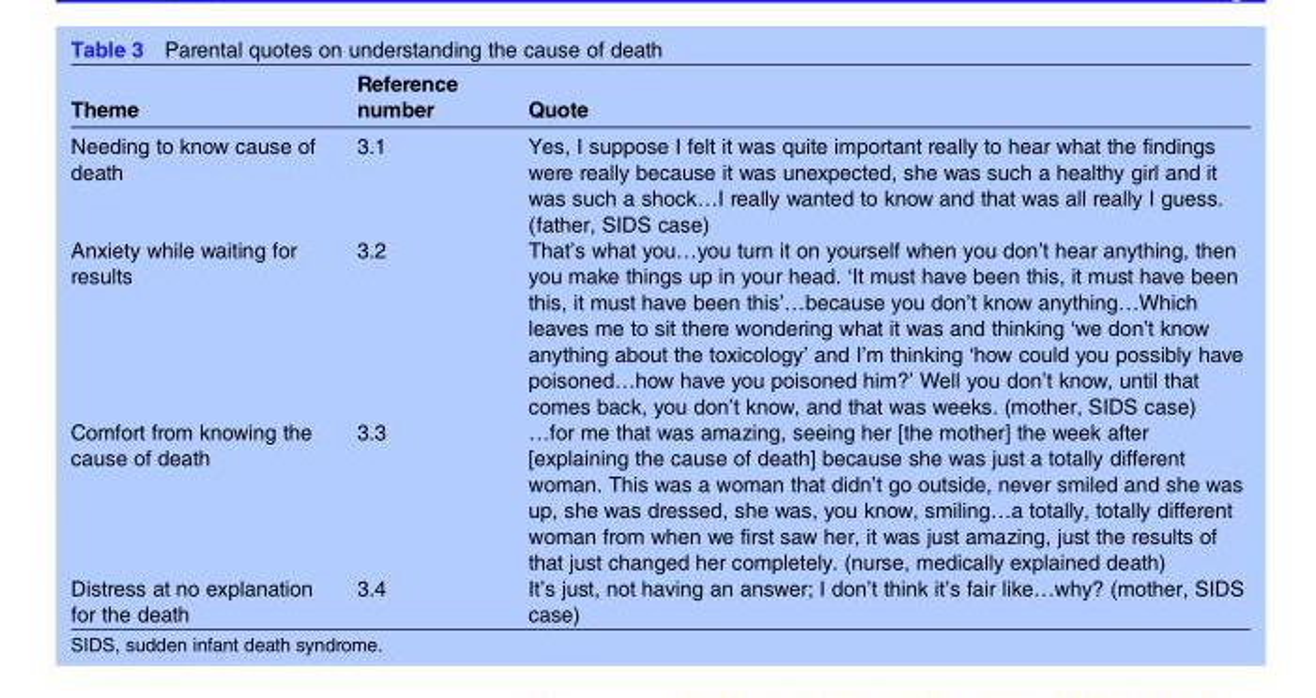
<table><thead><tr><td>Theme</td><td>Reference number</td><td>Quote</td></tr></thead><tbody><tr><td>Needing to know cause of death</td><td>3.1</td><td>Yes, I suppose I felt it was quite important really to hear what the findings were really because it was unexpected, she was such a healthy girl and it was such a shock…I really wanted to know and that was all really I guess. (father, SIDS case)</td></tr><tr><td>Anxiety while waiting for results</td><td>3.2</td><td>That’s what you…you turn it on yourself when you don’t hear anything, then you make things up in your head. ‘It must have been this, it must have been this, it must have been this’…because you don’t know anything…Which leaves me to sit there wondering what it was and thinking ‘we don’t know anything about the toxicology’ and I’m thinking ‘how could you possibly have poisoned…how have you poisoned him?’ Well you don’t know, until that comes back, you don’t know, and that was weeks. (mother, SIDS case)</td></tr><tr><td>Comfort from knowing the cause of death</td><td>3.3</td><td>…for me that was amazing, seeing her [the mother] the week after [explaining the cause of death] because she was just a totally different woman. This was a woman that didn’t go outside, never smiled and she was up, she was dressed, she was, you know, smiling…a totally, totally different woman from when we first saw her, it was just amazing, just the results of that just changed her completely. (nurse, medically explained death)</td></tr><tr><td>Distress at no explanation for the death</td><td>3.4</td><td>It’s just, not having an answer; I don’t think it’s fair like…why? (mother, SIDS case)</td></tr></tbody></table>